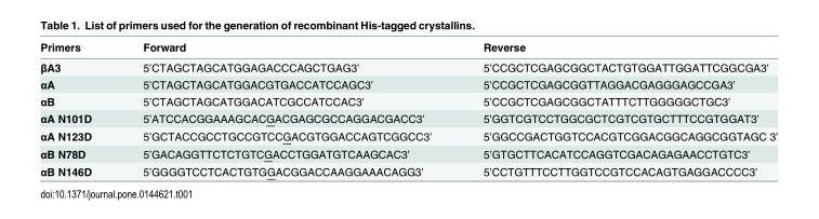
<table><thead><tr><td>Primers</td><td>Forward</td><td>Reverse</td></tr></thead><tbody><tr><td>βA3</td><td>5’CTAGCTAGCATGGAGACCCAGCTGAG3’</td><td>5’CCGCTCGAGCGGCTACTGTGGATTGGATTCGGCGA3’</td></tr><tr><td>αA</td><td>5’CTAGCTAGCATGGACGTGACCATCCAGC3’</td><td>5’CCGCTCGAGCGGTTAGGACGAGGGAGCCGA3’</td></tr><tr><td>αB</td><td>5’CTAGCTAGCATGGACATCGCCATCCAC3’</td><td>5’CCGCTCGAGCGGCTATTTCTTGGGGGCTGC3’</td></tr><tr><td>αA N101D</td><td>5’ATCCACGGAAAGCACGACGAGCGCCAGGACGACC3’</td><td>5’GGTCGTCCTGGCGCTCGTCGTGCTTTCCGTGGAT3’</td></tr><tr><td>αA N123D</td><td>5’GCTACCGCCTGCCGTCCGACGTGGACCAGTCGGCC3’</td><td>5’GGCCGACTGGTCCACGTCGGACGGCAGGCGGTAGC 3’</td></tr><tr><td>αB N78D</td><td>5’GACAGGTTCTCTGTCGACCTGGATGTCAAGCAC3’</td><td>5’GTGCTTCACATCCAGGTCGACAGAGAACCTGTC3’</td></tr><tr><td>αB N146D</td><td>5’GGGGTCCTCACTGTGGACGGACCAAGGAAACAGG3’</td><td>5’CCTGTTTCCTTGGTCCGTCCACAGTGAGGACCCC3’</td></tr></tbody></table>